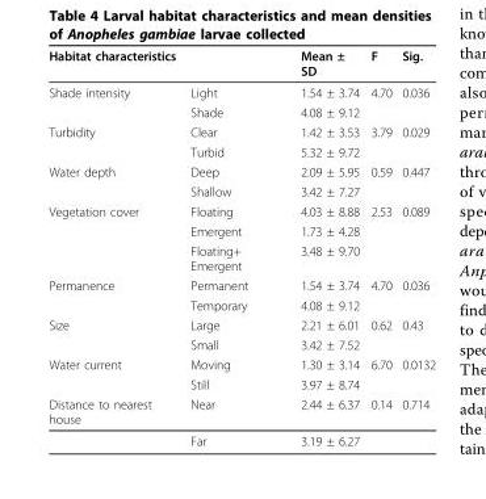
<table><thead><tr><td>Habitat characteristics</td><td></td><td>Mean ± SD</td><td>F</td><td>Sig.</td></tr></thead><tbody><tr><td rowspan="2">Shade intensity</td><td>Light</td><td>1.54 ± 3.74</td><td>4.70</td><td>0.036</td></tr><tr><td>Shade</td><td>4.08 ± 9.12</td><td></td><td></td></tr><tr><td rowspan="2">Turbidity</td><td>Clear</td><td>1.42 ± 3.53</td><td>3.79</td><td>0.029</td></tr><tr><td>Turbid</td><td>5.32 ± 9.72</td><td></td><td></td></tr><tr><td rowspan="2">Water depth</td><td>Deep</td><td>2.09 ± 5.95</td><td>0.59</td><td>0.447</td></tr><tr><td>Shallow</td><td>3.42 ± 7.27</td><td></td><td></td></tr><tr><td rowspan="3">Vegetation cover</td><td>Floating</td><td>4.03 ± 8.88</td><td>2.53</td><td>0.089</td></tr><tr><td>Emergent</td><td>1.73 ± 4.28</td><td></td><td></td></tr><tr><td>Floating+ Emergent</td><td>3.48 ± 9.70</td><td></td><td></td></tr><tr><td rowspan="2">Permanence</td><td>Permanent</td><td>1.54 ± 3.74</td><td>4.70</td><td>0.036</td></tr><tr><td>Temporary</td><td>4.08 ± 9.12</td><td></td><td></td></tr><tr><td rowspan="2">Size</td><td>Large</td><td>2.21 ± 6.01</td><td>0.62</td><td>0.43</td></tr><tr><td>Small</td><td>3.42 ± 7.52</td><td></td><td></td></tr><tr><td rowspan="2">Water current</td><td>Moving</td><td>1.30 ± 3.14</td><td>6.70</td><td>0.0132</td></tr><tr><td>Still</td><td>3.97 ± 8.74</td><td></td><td></td></tr><tr><td rowspan="2">Distance to nearest house</td><td>Near</td><td>2.44 ± 6.37</td><td>0.14</td><td>0.714</td></tr><tr><td>Far</td><td>3.19 ± 6.27</td><td></td><td></td></tr></tbody></table>